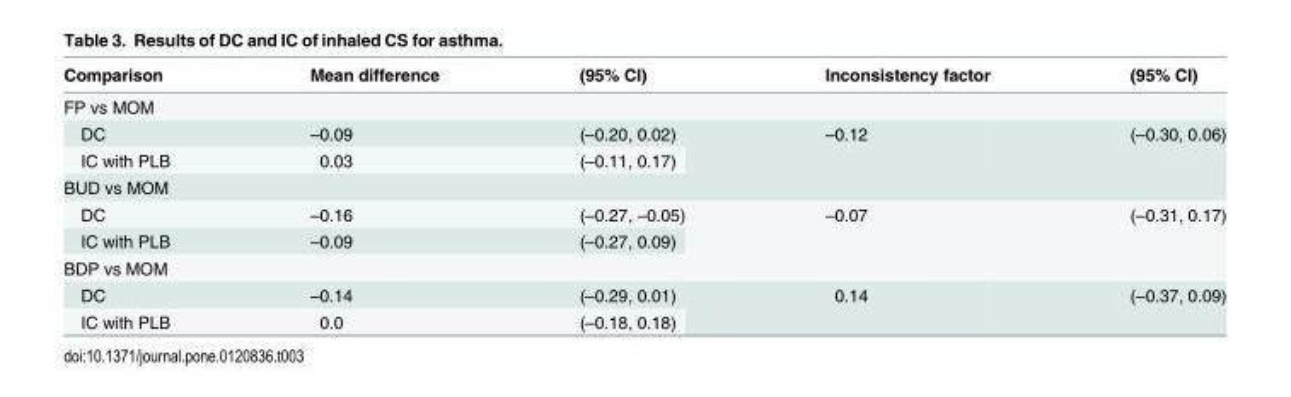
<table><thead><tr><td>Comparison</td><td>Mean difference</td><td>(95% CI)</td><td>Inconsistency factor</td><td>(95% CI)</td></tr></thead><tbody><tr><td colspan="5">FP vs MOM</td></tr><tr><td>DC</td><td>–0.09</td><td>(–0.20, 0.02)</td><td rowspan="2">–0.12</td><td rowspan="2">(–0.30, 0.06)</td></tr><tr><td>IC with PLB</td><td>0.03</td><td>(–0.11, 0.17)</td></tr><tr><td colspan="5">BUD vs MOM</td></tr><tr><td>DC</td><td>–0.16</td><td>(–0.27, –0.05)</td><td rowspan="2">–0.07</td><td rowspan="2">(–0.31, 0.17)</td></tr><tr><td>IC with PLB</td><td>–0.09</td><td>(–0.27, 0.09)</td></tr><tr><td colspan="5">BDP vs MOM</td></tr><tr><td>DC</td><td>–0.14</td><td>(–0.29, 0.01)</td><td rowspan="2">0.14</td><td rowspan="2">(–0.37, 0.09)</td></tr><tr><td>IC with PLB</td><td>0.0</td><td>(–0.18, 0.18)</td></tr></tbody></table>